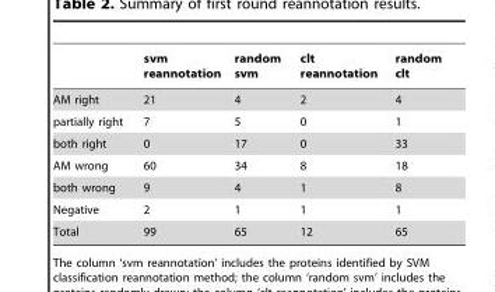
<table><thead><tr><td></td><td>svm reannotation</td><td>random svm</td><td>clt reannotation</td><td>random clt</td></tr></thead><tbody><tr><td>AM right</td><td>21</td><td>4</td><td>2</td><td>4</td></tr><tr><td>partially right</td><td>7</td><td>5</td><td>0</td><td>1</td></tr><tr><td>both right</td><td>0</td><td>17</td><td>0</td><td>33</td></tr><tr><td>AM wrong</td><td>60</td><td>34</td><td>8</td><td>18</td></tr><tr><td>both wrong</td><td>9</td><td>4</td><td>1</td><td>8</td></tr><tr><td>Negative</td><td>2</td><td>1</td><td>1</td><td>1</td></tr><tr><td>Total</td><td>99</td><td>65</td><td>12</td><td>65</td></tr></tbody></table>